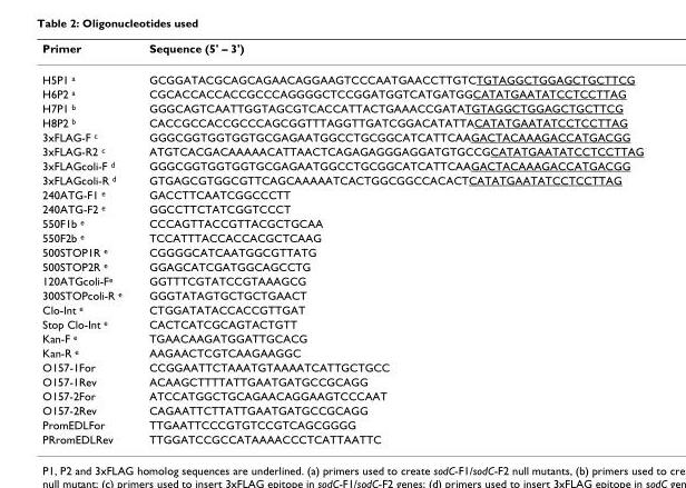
<table><thead><tr><td>Primer</td><td>Sequence (5&#x27; – 3&#x27;)</td></tr></thead><tbody><tr><td>H5P1 <sup>a</sup></td><td>GCGGATACGCAGCAGAACAGGAAGTCCCAATGAACCTTGTCTGTAGGCTGGAGCTGCTTCG</td></tr><tr><td>H6P2 <sup>a</sup></td><td>CGCACCACCACCGCCCAGGGGCTCCGGATGGTCATGATGGCATATGAATATCCTCCTTAG</td></tr><tr><td>H7P1 <sup>b</sup></td><td>GGGCAGTCAATTGGTAGCGTCACCATTACTGAAACCGATATGTAGGCTGGAGCTGCTTCG</td></tr><tr><td>H8P2 <sup>b</sup></td><td>CACCGCCACCGCCCAGCGGTTTAGGTTGATCGGACATATTACATATGAATATCCTCCTTAG</td></tr><tr><td>3xFLAG-F <sup>c</sup></td><td>GGGCGGTGGTGGTGCGAGAATGGCCTGCGGCATCATTCAAGACTACAAAGACCATGACGG</td></tr><tr><td>3xFLAG-R2 <sup>c</sup></td><td>ATGTCACGACAAAAACATTAACTCAGAGAGGGAGGATGTGCCGCATATGAATATCCTCCTTAG</td></tr><tr><td>3xFLAGcoli-F <sup>d</sup></td><td>GGGCGGTGGTGGTGCGAGAATGGCCTGCGGCATCATTCAAGACTACAAAGACCATGACGG</td></tr><tr><td>3xFLAGcoli-R <sup>d</sup></td><td>GTGAGCGTGGCGTTCAGCAAAAATCACTGGCGGCCACACTCATATGAATATCCTCCTTAG</td></tr><tr><td>240ATG-F1 <sup>e</sup></td><td>GACCTTCAATCGGCCCTT</td></tr><tr><td>240ATG-F2 <sup>e</sup></td><td>GGCCTTCTATCGGTCCCT</td></tr><tr><td>550F1b <sup>e</sup></td><td>CCCAGTTACCGTTACGCTGCAA</td></tr><tr><td>550F2b <sup>e</sup></td><td>TCCATTTACCACCACGCTCAAG</td></tr><tr><td>500STOP1R <sup>e</sup></td><td>CGGGGCATCAATGGCGTTATG</td></tr><tr><td>500STOP2R <sup>e</sup></td><td>GGAGCATCGATGGCAGCCTG</td></tr><tr><td>120ATGcoli-F<sup>e</sup></td><td>GGTTTCGTATCCGTAAAGCG</td></tr><tr><td>300STOPcoli-R <sup>e</sup></td><td>GGGTATAGTGCTGCTGAACT</td></tr><tr><td>Clo-Int <sup>e</sup></td><td>CTGGATATACCACCGTTGAT</td></tr><tr><td>Stop Clo-Int <sup>e</sup></td><td>CACTCATCGCAGTACTGTT</td></tr><tr><td>Kan-F <sup>e</sup></td><td>TGAACAAGATGGATTGCACG</td></tr><tr><td>Kan-R <sup>e</sup></td><td>AAGAACTCGTCAAGAAGGC</td></tr><tr><td>O157-1For</td><td>CCGGAATTCTAAATGTAAAATCATTGCTGCC</td></tr><tr><td>O157-1Rev</td><td>ACAAGCTTTTATTGAATGATGCCGCAGG</td></tr><tr><td>O157-2For</td><td>ATCCATGGCTGCAGAACAGGAAGTCCCAAT</td></tr><tr><td>O157-2Rev</td><td>CAGAATTCTTATTGAATGATGCCGCAGG</td></tr><tr><td>PromEDLFor</td><td>TTGAATTCCCGTGTCCGTCAGCGGGG</td></tr><tr><td>PRromEDLRev</td><td>TTGGATCCGCCATAAAACCCTCATTAATTC</td></tr></tbody></table>